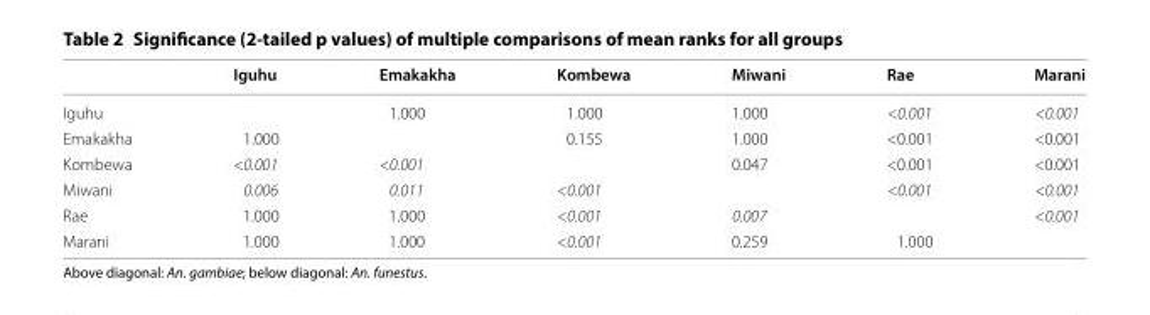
<table><thead><tr><td></td><td>Iguhu</td><td>Emakakha</td><td>Kombewa</td><td>Miwani</td><td>Rae</td><td>Marani</td></tr></thead><tbody><tr><td>Iguhu</td><td></td><td>1.000</td><td>1.000</td><td>1.000</td><td>&lt;0.001</td><td>&lt;0.001</td></tr><tr><td>Emakakha</td><td>1.000</td><td></td><td>0.155</td><td>1.000</td><td>&lt;0.001</td><td>&lt;0.001</td></tr><tr><td>Kombewa</td><td>&lt;0.001</td><td>&lt;0.001</td><td></td><td>0.047</td><td>&lt;0.001</td><td>&lt;0.001</td></tr><tr><td>Miwani</td><td>0.006</td><td>0.011</td><td>&lt;0.001</td><td></td><td>&lt;0.001</td><td>&lt;0.001</td></tr><tr><td>Rae</td><td>1.000</td><td>1.000</td><td>&lt;0.001</td><td>0.007</td><td></td><td>&lt;0.001</td></tr><tr><td>Marani</td><td>1.000</td><td>1.000</td><td>&lt;0.001</td><td>0.259</td><td>1.000</td><td></td></tr></tbody></table>